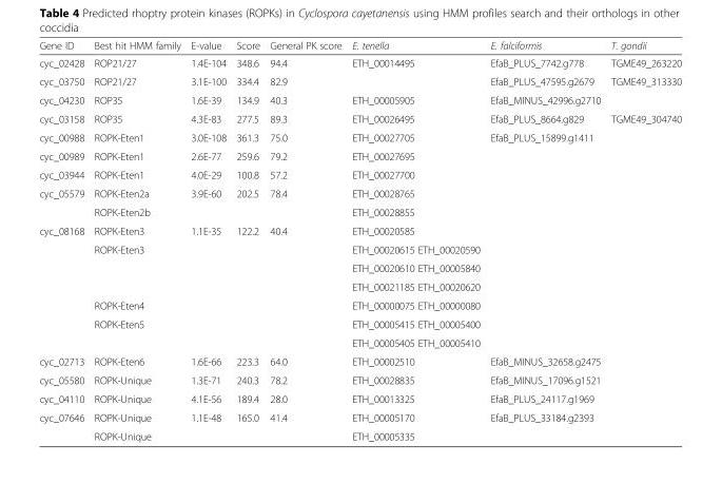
<table><thead><tr><td>Gene ID</td><td>Best hit HMM family</td><td>E-value</td><td>Score</td><td>General PK score</td><td>E. tenella</td><td>E. falciformis</td><td>T. gondii</td></tr></thead><tbody><tr><td>cyc_02428</td><td>ROP21/27</td><td>1.4E-104</td><td>348.6</td><td>94.4</td><td>ETH_00014495</td><td>EfaB_PLUS_7742.g778</td><td>TGME49_263220</td></tr><tr><td>cyc_03750</td><td>ROP21/27</td><td>3.1E-100</td><td>334.4</td><td>82.9</td><td></td><td>EfaB_PLUS_47595.g2679</td><td>TGME49_313330</td></tr><tr><td>cyc_04230</td><td>ROP35</td><td>1.6E-39</td><td>134.9</td><td>40.3</td><td>ETH_00005905</td><td>EfaB_MINUS_42996.g2710</td><td></td></tr><tr><td>cyc_03158</td><td>ROP35</td><td>4.3E-83</td><td>277.5</td><td>89.3</td><td>ETH_00026495</td><td>EfaB_PLUS_8664.g829</td><td>TGME49_304740</td></tr><tr><td>cyc_00988</td><td>ROPK-Eten1</td><td>3.0E-108</td><td>361.3</td><td>75.0</td><td>ETH_00027705</td><td>EfaB_PLUS_15899.g1411</td><td></td></tr><tr><td>cyc_00989</td><td>ROPK-Eten1</td><td>2.6E-77</td><td>259.6</td><td>79.2</td><td>ETH_00027695</td><td></td><td></td></tr><tr><td>cyc_03944</td><td>ROPK-Eten1</td><td>4.0E-29</td><td>100.8</td><td>57.2</td><td>ETH_00027700</td><td></td><td></td></tr><tr><td rowspan="2">cyc_05579</td><td>ROPK-Eten2a</td><td>3.9E-60</td><td>202.5</td><td>78.4</td><td>ETH_00028765</td><td></td><td></td></tr><tr><td>ROPK-Eten2b</td><td></td><td></td><td></td><td>ETH_00028855</td><td></td><td></td></tr><tr><td rowspan="7">cyc_08168</td><td>ROPK-Eten3</td><td>1.1E-35</td><td>122.2</td><td>40.4</td><td>ETH_00020585</td><td></td><td></td></tr><tr><td rowspan="3">ROPK-Eten3</td><td rowspan="3"></td><td rowspan="3"></td><td rowspan="3"></td><td>ETH_00020615 ETH_00020590</td><td rowspan="3"></td><td rowspan="3"></td></tr><tr><td>ETH_00020610 ETH_00005840</td></tr><tr><td>ETH_00021185 ETH_00020620</td></tr><tr><td>ROPK-Eten4</td><td></td><td></td><td></td><td>ETH_00000075 ETH_00000080</td><td></td><td></td></tr><tr><td rowspan="2">ROPK-Eten5</td><td rowspan="2"></td><td rowspan="2"></td><td rowspan="2"></td><td>ETH_00005415 ETH_00005400</td><td rowspan="2"></td><td rowspan="2"></td></tr><tr><td>ETH_00005405 ETH_00005410</td></tr><tr><td>cyc_02713</td><td>ROPK-Eten6</td><td>1.6E-66</td><td>223.3</td><td>64.0</td><td>ETH_00002510</td><td>EfaB_MINUS_32658.g2475</td><td></td></tr><tr><td>cyc_05580</td><td>ROPK-Unique</td><td>1.3E-71</td><td>240.3</td><td>78.2</td><td>ETH_00028835</td><td>EfaB_MINUS_17096.g1521</td><td></td></tr><tr><td>cyc_04110</td><td>ROPK-Unique</td><td>4.1E-56</td><td>189.4</td><td>28.0</td><td>ETH_00013325</td><td>EfaB_PLUS_24117.g1969</td><td></td></tr><tr><td rowspan="2">cyc_07646</td><td>ROPK-Unique</td><td>1.1E-48</td><td>165.0</td><td>41.4</td><td>ETH_00005170</td><td>EfaB_PLUS_33184.g2393</td><td></td></tr><tr><td>ROPK-Unique</td><td></td><td></td><td></td><td>ETH_00005335</td><td></td><td></td></tr></tbody></table>